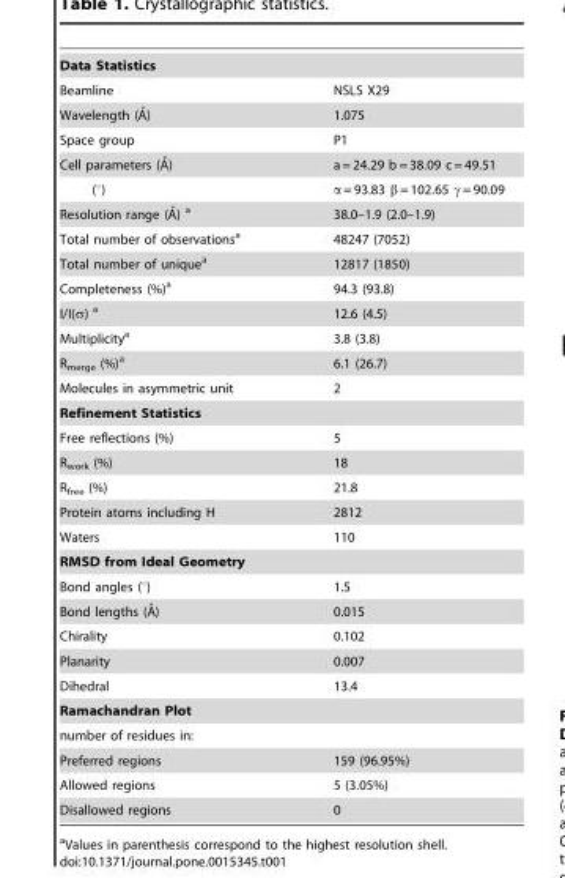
<table><tbody><tr><td colspan="2">Data Statistics</td></tr><tr><td>Beamline</td><td>NSLS X29</td></tr><tr><td>Wavelength (A˚)</td><td>1.075</td></tr><tr><td>Space group</td><td>P1</td></tr><tr><td>Cell parameters (A˚)</td><td>a = 24.29 b = 38.09 c = 49.51</td></tr><tr><td>(°)</td><td>α = 93.83 β = 102.65 γ = 90.09</td></tr><tr><td>Resolution range (A˚) a</td><td>38.0–1.9 (2.0–1.9)</td></tr><tr><td>Total number of observations<sup>a</sup></td><td>48247 (7052)</td></tr><tr><td>Total number of unique<sup>a</sup></td><td>12817 (1850)</td></tr><tr><td>Completeness (%)<sup>a</sup></td><td>94.3 (93.8)</td></tr><tr><td>I/I(σ) a</td><td>12.6 (4.5)</td></tr><tr><td>Multiplicity<sup>a</sup></td><td>3.8 (3.8)</td></tr><tr><td>R<sub>merge</sub> (%)<sup>a</sup></td><td>6.1 (26.7)</td></tr><tr><td>Molecules in asymmetric unit</td><td>2</td></tr><tr><td colspan="2">Refinement Statistics</td></tr><tr><td>Free reflections (%)</td><td>5</td></tr><tr><td>R<sub>work</sub> (%)</td><td>18</td></tr><tr><td>R<sub>free</sub> (%)</td><td>21.8</td></tr><tr><td>Protein atoms including H</td><td>2812</td></tr><tr><td>Waters</td><td>110</td></tr><tr><td colspan="2">RMSD from Ideal Geometry</td></tr><tr><td>Bond angles (°)</td><td>1.5</td></tr><tr><td>Bond lengths (A˚)</td><td>0.015</td></tr><tr><td>Chirality</td><td>0.102</td></tr><tr><td>Planarity</td><td>0.007</td></tr><tr><td>Dihedral</td><td>13.4</td></tr><tr><td colspan="2">Ramachandran Plot</td></tr><tr><td colspan="2">number of residues in:</td></tr><tr><td>Preferred regions</td><td>159 (96.95%)</td></tr><tr><td>Allowed regions</td><td>5 (3.05%)</td></tr><tr><td>Disallowed regions</td><td>0</td></tr></tbody></table>